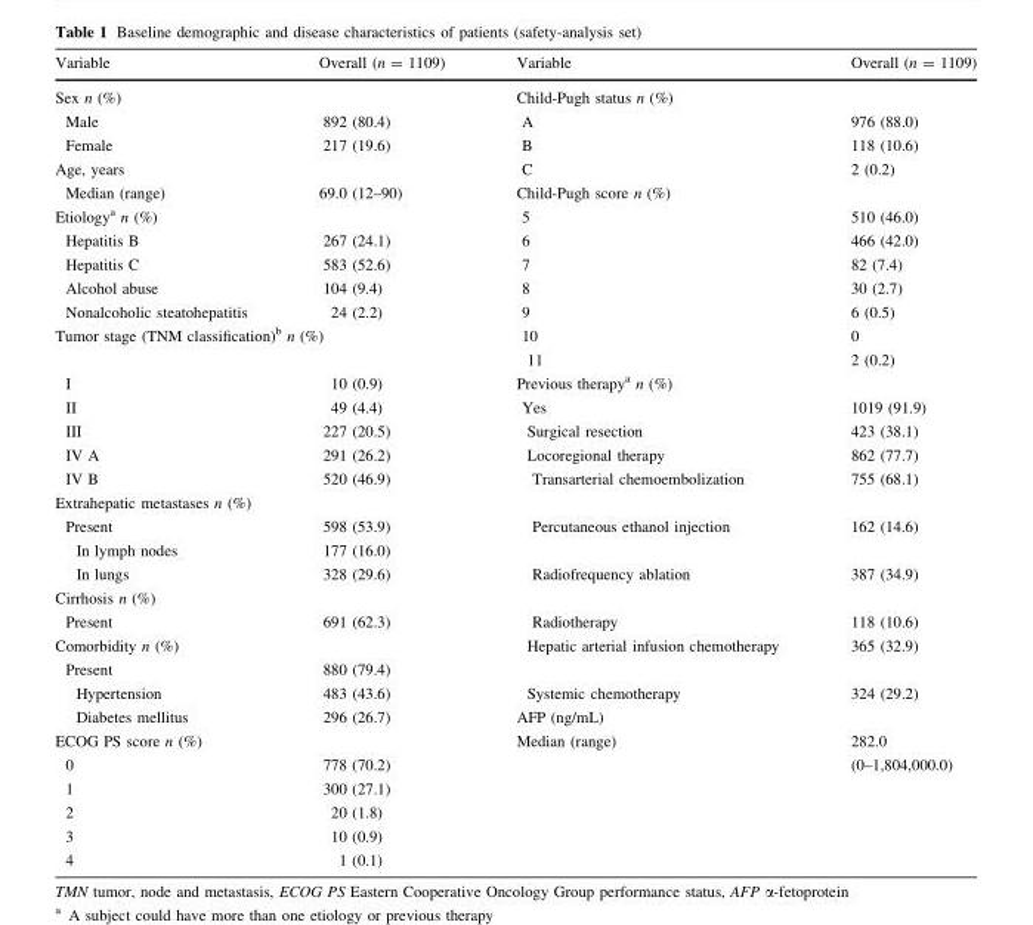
<table><thead><tr><td>Variable</td><td>Overall (n = 1109)</td><td>Variable</td><td>Overall (n = 1109)</td></tr></thead><tbody><tr><td colspan="2">Sex n (%)</td><td colspan="2">Child-Pugh status n (%)</td></tr><tr><td>Male</td><td>892 (80.4)</td><td>A</td><td>976 (88.0)</td></tr><tr><td>Female</td><td>217 (19.6)</td><td>B</td><td>118 (10.6)</td></tr><tr><td colspan="2">Age, years</td><td>C</td><td>2 (0.2)</td></tr><tr><td>Median (range)</td><td>69.0 (12–90)</td><td colspan="2">Child-Pugh score n (%)</td></tr><tr><td colspan="2">Etiology<sup>a</sup> n (%)</td><td>5</td><td>510 (46.0)</td></tr><tr><td>Hepatitis B</td><td>267 (24.1)</td><td>6</td><td>466 (42.0)</td></tr><tr><td>Hepatitis C</td><td>583 (52.6)</td><td>7</td><td>82 (7.4)</td></tr><tr><td>Alcohol abuse</td><td>104 (9.4)</td><td>8</td><td>30 (2.7)</td></tr><tr><td>Nonalcoholic steatohepatitis</td><td>24 (2.2)</td><td>9</td><td>6 (0.5)</td></tr><tr><td rowspan="2" colspan="2">Tumor stage (TNM classification)<sup>b</sup> n (%)</td><td>10</td><td>0</td></tr><tr><td>11</td><td>2 (0.2)</td></tr><tr><td>I</td><td>10 (0.9)</td><td colspan="2">Previous therapy<sup>a</sup> n (%)</td></tr><tr><td>II</td><td>49 (4.4)</td><td>Yes</td><td>1019 (91.9)</td></tr><tr><td>III</td><td>227 (20.5)</td><td>Surgical resection</td><td>423 (38.1)</td></tr><tr><td>IV A</td><td>291 (26.2)</td><td>Locoregional therapy</td><td>862 (77.7)</td></tr><tr><td>IV B</td><td>520 (46.9)</td><td rowspan="2">Transarterial chemoembolization</td><td rowspan="2">755 (68.1)</td></tr><tr><td colspan="2">Extrahepatic metastases n (%)</td></tr><tr><td>Present</td><td>598 (53.9)</td><td rowspan="2">Percutaneous ethanol injection</td><td rowspan="2">162 (14.6)</td></tr><tr><td>In lymph nodes</td><td>177 (16.0)</td></tr><tr><td>In lungs</td><td>328 (29.6)</td><td rowspan="2">Radiofrequency ablation</td><td rowspan="2">387 (34.9)</td></tr><tr><td colspan="2">Cirrhosis n (%)</td></tr><tr><td>Present</td><td>691 (62.3)</td><td>Radiotherapy</td><td>118 (10.6)</td></tr><tr><td colspan="2">Comorbidity n (%)</td><td rowspan="2">Hepatic arterial infusion chemotherapy</td><td rowspan="2">365 (32.9)</td></tr><tr><td>Present</td><td>880 (79.4)</td></tr><tr><td>Hypertension</td><td>483 (43.6)</td><td>Systemic chemotherapy</td><td rowspan="2">324 (29.2)</td></tr><tr><td>Diabetes mellitus</td><td>296 (26.7)</td><td>AFP (ng/mL)</td></tr><tr><td colspan="2">ECOG PS score n (%)</td><td>Median (range)</td><td>282.0</td></tr><tr><td>0</td><td>778 (70.2)</td><td></td><td>(0–1,804,000.0)</td></tr><tr><td>1</td><td>300 (27.1)</td><td></td><td></td></tr><tr><td>2</td><td>20 (1.8)</td><td></td><td></td></tr><tr><td>3</td><td>10 (0.9)</td><td></td><td></td></tr><tr><td>4</td><td>1 (0.1)</td><td></td><td></td></tr></tbody></table>